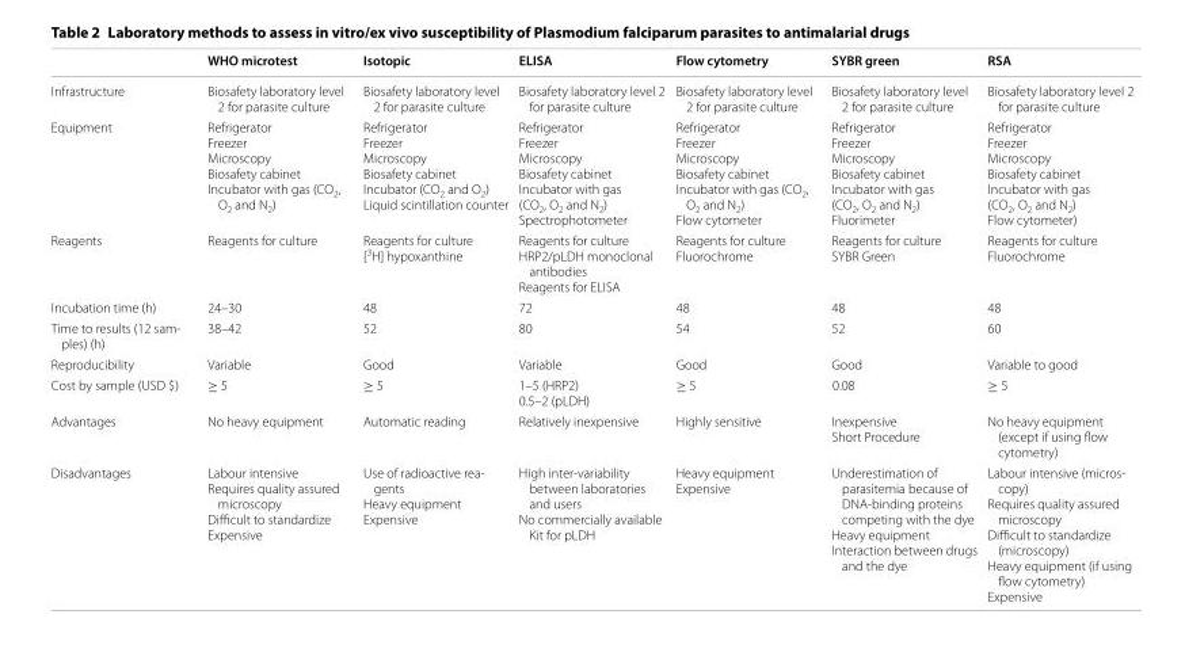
<table><thead><tr><td></td><td>WHO microtest</td><td>Isotopic</td><td>ELISA</td><td>Flow cytometry</td><td>SYBR green</td><td>RSA</td></tr></thead><tbody><tr><td>Infrastructure</td><td>Biosafety laboratory level 2 for parasite culture</td><td>Biosafety laboratory level 2 for parasite culture</td><td>Biosafety laboratory level 2 for parasite culture</td><td>Biosafety laboratory level 2 for parasite culture</td><td>Biosafety laboratory level 2 for parasite culture</td><td>Biosafety laboratory level 2 for parasite culture</td></tr><tr><td>Equipment</td><td>Refrigerator Freezer Microscopy Biosafety cabinet Incubator with gas (CO<sub>2</sub>, O<sub>2</sub> and N<sub>2</sub>)</td><td>Refrigerator Freezer Microscopy Biosafety cabinet Incubator (CO<sub>2</sub> and O<sub>2</sub>) Liquid scintillation counter</td><td>Refrigerator Freezer Microscopy Biosafety cabinet Incubator with gas (CO<sub>2</sub>, O<sub>2</sub> and N<sub>2</sub>) Spectrophotometer</td><td>Refrigerator Freezer Microscopy Biosafety cabinet Incubator with gas (CO<sub>2</sub>, O<sub>2</sub> and N<sub>2</sub>) Flow cytometer</td><td>Refrigerator Freezer Microscopy Biosafety cabinet Incubator with gas (CO<sub>2</sub>, O<sub>2</sub> and N<sub>2</sub>) Fluorimeter</td><td>Refrigerator Freezer Microscopy Biosafety cabinet Incubator with gas (CO<sub>2</sub>, O<sub>2</sub> and N<sub>2</sub>) Flow cytometer)</td></tr><tr><td>Reagents</td><td>Reagents for culture</td><td>Reagents for culture [<sup>3</sup>H] hypoxanthine</td><td>Reagents for culture HRP2/pLDH monoclonal antibodies Reagents for ELISA</td><td>Reagents for culture Fluorochrome</td><td>Reagents for culture SYBR Green</td><td>Reagents for culture Fluorochrome</td></tr><tr><td>Incubation time (h)</td><td>24–30</td><td>48</td><td>72</td><td>48</td><td>48</td><td>48</td></tr><tr><td>Time to results (12 sam- ples) (h)</td><td>38–42</td><td>52</td><td>80</td><td>54</td><td>52</td><td>60</td></tr><tr><td>Reproducibility</td><td>Variable</td><td>Good</td><td>Variable</td><td>Good</td><td>Good</td><td>Variable to good</td></tr><tr><td>Cost by sample (USD $)</td><td>≥ 5</td><td>≥ 5</td><td>1–5 (HRP2) 0.5–2 (pLDH)</td><td>≥ 5</td><td>0.08</td><td>≥ 5</td></tr><tr><td>Advantages</td><td>No heavy equipment</td><td>Automatic reading</td><td>Relatively inexpensive</td><td>Highly sensitive</td><td>Inexpensive Short Procedure</td><td>No heavy equipment (except if using flow cytometry)</td></tr><tr><td>Disadvantages</td><td>Labour intensive Requires quality assured microscopy Difficult to standardize Expensive</td><td>Use of radioactive rea- gents Heavy equipment Expensive</td><td>High inter-variability between laboratories and users No commercially available Kit for pLDH</td><td>Heavy equipment Expensive</td><td>Underestimation of parasitemia because of DNA-binding proteins competing with the dye Heavy equipment Interaction between drugs and the dye</td><td>Labour intensive (micros- copy) Requires quality assured microscopy Difficult to standardize (microscopy) Heavy equipment (if using flow cytometry) Expensive</td></tr></tbody></table>